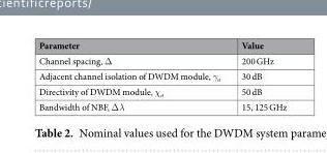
<table><thead><tr><td>Parameter</td><td>Value</td></tr></thead><tbody><tr><td>Channel spacing, Δ</td><td>200 GHz</td></tr><tr><td>Adjacent channel isolation of DWDM module, γ<sub>a</sub></td><td>30 dB</td></tr><tr><td>Directivity of DWDM module, χ<sub>a</sub></td><td>50 dB</td></tr><tr><td>Bandwidth of NBF, Δλ</td><td>15, 125 GHz</td></tr></tbody></table>